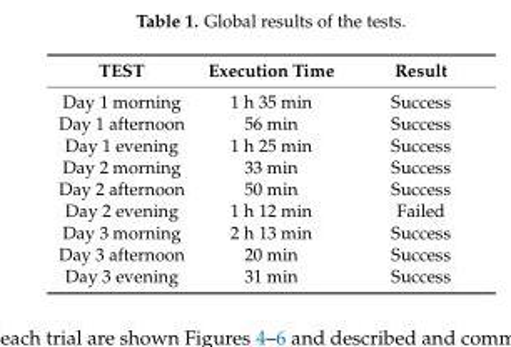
<table><thead><tr><td>TEST</td><td>Execution Time</td><td>Result</td></tr></thead><tbody><tr><td>Day 1 morning</td><td>1 h 35 min</td><td>Success</td></tr><tr><td>Day 1 afternoon</td><td>56 min</td><td>Success</td></tr><tr><td>Day 1 evening</td><td>1 h 25 min</td><td>Success</td></tr><tr><td>Day 2 morning</td><td>33 min</td><td>Success</td></tr><tr><td>Day 2 afternoon</td><td>50 min</td><td>Success</td></tr><tr><td>Day 2 evening</td><td>1 h 12 min</td><td>Failed</td></tr><tr><td>Day 3 morning</td><td>2 h 13 min</td><td>Success</td></tr><tr><td>Day 3 afternoon</td><td>20 min</td><td>Success</td></tr><tr><td>Day 3 evening</td><td>31 min</td><td>Success</td></tr></tbody></table>